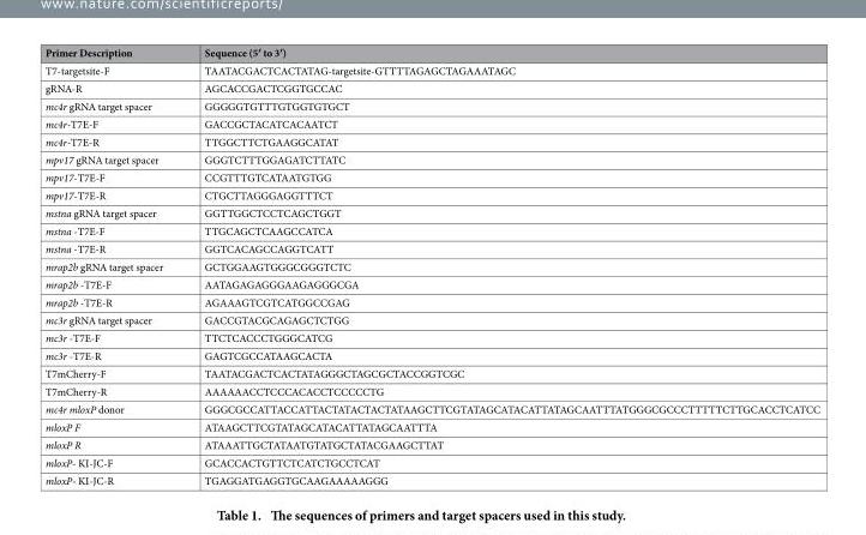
<table><thead><tr><td>Primer Description</td><td>Sequence (5′ to 3′)</td></tr></thead><tbody><tr><td>T7-targetsite-F</td><td>TAATACGACTCACTATAG-targetsite-GTTTTAGAGCTAGAAATAGC</td></tr><tr><td>gRNA-R</td><td>AGCACCGACTCGGTGCCAC</td></tr><tr><td>mc4r gRNA target spacer</td><td>GGGGGTGTTTGTGGTGTGCT</td></tr><tr><td>mc4r-T7E-F</td><td>GACCGCTACATCACAATCT</td></tr><tr><td>mc4r-T7E-R</td><td>TTGGCTTCTGAAGGCATAT</td></tr><tr><td>mpv17 gRNA target spacer</td><td>GGGTCTTTGGAGATCTTATC</td></tr><tr><td>mpv17-T7E-F</td><td>CCGTTTGTCATAATGTGG</td></tr><tr><td>mpv17-T7E-R</td><td>CTGCTTAGGGAGGTTTCT</td></tr><tr><td>mstna gRNA target spacer</td><td>GGTTGGCTCCTCAGCTGGT</td></tr><tr><td>mstna -T7E-F</td><td>TTGCAGCTCAAGCCATCA</td></tr><tr><td>mstna -T7E-R</td><td>GGTCACAGCCAGGTCATT</td></tr><tr><td>mrap2b gRNA target spacer</td><td>GCTGGAAGTGGGCGGGTCTC</td></tr><tr><td>mrap2b -T7E-F</td><td>AATAGAGAGGGAAGAGGGCGA</td></tr><tr><td>mrap2b -T7E-R</td><td>AGAAAGTCGTCATGGCCGAG</td></tr><tr><td>mc3r gRNA target spacer</td><td>GACCGTACGCAGAGCTCTGG</td></tr><tr><td>mc3r -T7E-F</td><td>TTCTCACCCTGGGCATCG</td></tr><tr><td>mc3r -T7E-R</td><td>GAGTCGCCATAAGCACTA</td></tr><tr><td>T7mCherry-F</td><td>TAATACGACTCACTATAGGGCTAGCGCTACCGGTCGC</td></tr><tr><td>T7mCherry-R</td><td>AAAAAACCTCCCACACCTCCCCCTG</td></tr><tr><td>mc4r mloxP donor</td><td>GGGCGCCATTACCATTACTATACTACTATAAGCTTCGTATAGCATACATTATAGCAATTTATGGGCGCCCTTTTTCTTGCACCTCATCC</td></tr><tr><td>mloxP F</td><td>ATAAGCTTCGTATAGCATACATTATAGCAATTTA</td></tr><tr><td>mloxP R</td><td>ATAAATTGCTATAATGTATGCTATACGAAGCTTAT</td></tr><tr><td>mloxP- KI-JC-F</td><td>GCACCACTGTTCTCATCTGCCTCAT</td></tr><tr><td>mloxP- KI-JC-R</td><td>TGAGGATGAGGTGCAAGAAAAAGGG</td></tr></tbody></table>